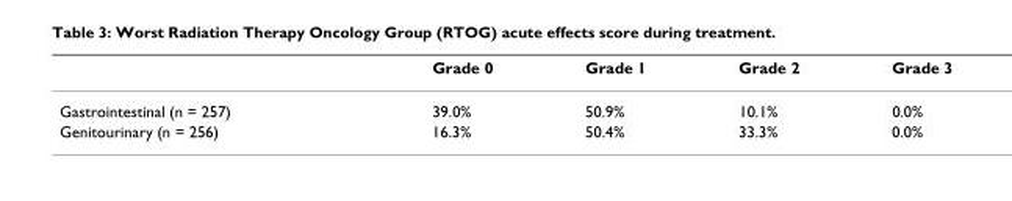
<table><thead><tr><td></td><td>Grade 0</td><td>Grade 1</td><td>Grade 2</td><td>Grade 3</td></tr></thead><tbody><tr><td>Gastrointestinal (n = 257)</td><td>39.0%</td><td>50.9%</td><td>10.1%</td><td>0.0%</td></tr><tr><td>Genitourinary (n = 256)</td><td>16.3%</td><td>50.4%</td><td>33.3%</td><td>0.0%</td></tr></tbody></table>